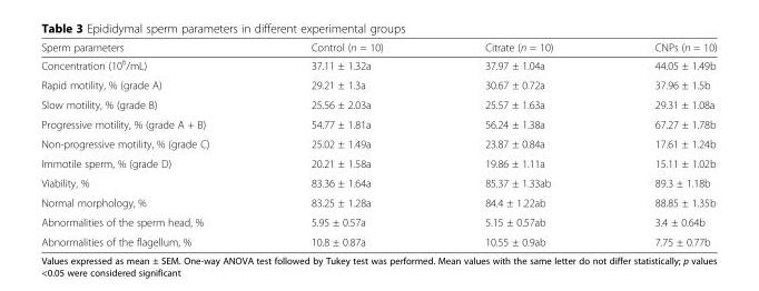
<table><thead><tr><td>Sperm parameters</td><td>Control (n = 10)</td><td>Citrate (n = 10)</td><td>CNPs (n = 10)</td></tr></thead><tbody><tr><td>Concentration (10<sup>6</sup>/mL)</td><td>37.11 ± 1.32а</td><td>37.97 ± 1.04а</td><td>44.05 ± 1.49b</td></tr><tr><td>Rapid motility, % (grade A)</td><td>29.21 ± 1.3а</td><td>30.67 ± 0.72а</td><td>37.96 ± 1.5b</td></tr><tr><td>Slow motility, % (grade B)</td><td>25.56 ± 2.03а</td><td>25.57 ± 1.63а</td><td>29.31 ± 1.08а</td></tr><tr><td>Progressive motility, % (grade A + B)</td><td>54.77 ± 1.81а</td><td>56.24 ± 1.38а</td><td>67.27 ± 1.78b</td></tr><tr><td>Non-progressive motility, % (grade C)</td><td>25.02 ± 1.49а</td><td>23.87 ± 0.84а</td><td>17.61 ± 1.24b</td></tr><tr><td>Immotile sperm, % (grade D)</td><td>20.21 ± 1.58а</td><td>19.86 ± 1.11а</td><td>15.11 ± 1.02b</td></tr><tr><td>Viability, %</td><td>83.36 ± 1.64а</td><td>85.37 ± 1.33аb</td><td>89.3 ± 1.18b</td></tr><tr><td>Normal morphology, %</td><td>83.25 ± 1.28а</td><td>84.4 ± 1.22аb</td><td>88.85 ± 1.35b</td></tr><tr><td>Abnormalities of the sperm head, %</td><td>5.95 ± 0.57а</td><td>5.15 ± 0.57аb</td><td>3.4 ± 0.64b</td></tr><tr><td>Abnormalities of the flagellum, %</td><td>10.8 ± 0.87а</td><td>10.55 ± 0.9аb</td><td>7.75 ± 0.77b</td></tr></tbody></table>